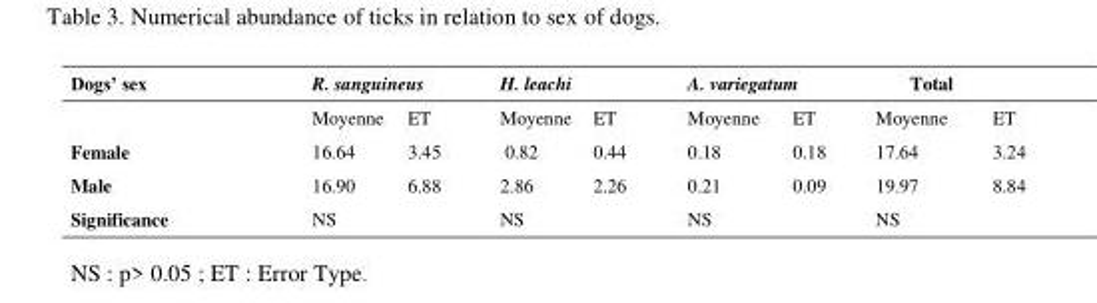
<table><thead><tr><td rowspan="2">Dogs’ sex</td><td colspan="2">R. sanguineus</td><td colspan="2">H. leachi</td><td colspan="2">A. variegatum</td><td colspan="2">Total</td></tr><tr><td>Moyenne</td><td>ET</td><td>Moyenne</td><td>ET</td><td>Moyenne</td><td>ET</td><td>Moyenne</td><td>ET</td></tr></thead><tbody><tr><td>Female</td><td>16.64</td><td>3.45</td><td>0.82</td><td>0.44</td><td>0.18</td><td>0.18</td><td>17.64</td><td>3.24</td></tr><tr><td>Male</td><td>16.90</td><td>6.88</td><td>2.86</td><td>2.26</td><td>0.21</td><td>0.09</td><td>19.97</td><td>8.84</td></tr><tr><td>Significance</td><td colspan="2">NS</td><td colspan="2">NS</td><td colspan="2">NS</td><td colspan="2">NS</td></tr></tbody></table>